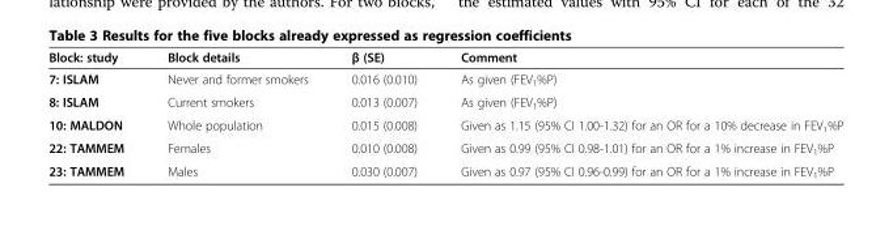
<table><thead><tr><td>Block: study</td><td>Block details</td><td>β (SE)</td><td>Comment</td></tr></thead><tbody><tr><td>7: ISLAM</td><td>Never and former smokers</td><td>0.016 (0.010)</td><td>As given (FEV<sub>1</sub>%P)</td></tr><tr><td>8: ISLAM</td><td>Current smokers</td><td>0.013 (0.007)</td><td>As given (FEV<sub>1</sub>%P)</td></tr><tr><td>10: MALDON</td><td>Whole population</td><td>0.015 (0.008)</td><td>Given as 1.15 (95% CI 1.00-1.32) for an OR for a 10% decrease in FEV<sub>1</sub>%P</td></tr><tr><td>22: TAMMEM</td><td>Females</td><td>0.010 (0.008)</td><td>Given as 0.99 (95% CI 0.98-1.01) for an OR for a 1% increase in FEV<sub>1</sub>%P</td></tr><tr><td>23: TAMMEM</td><td>Males</td><td>0.030 (0.007)</td><td>Given as 0.97 (95% CI 0.96-0.99) for an OR for a 1% increase in FEV<sub>1</sub>%P</td></tr></tbody></table>